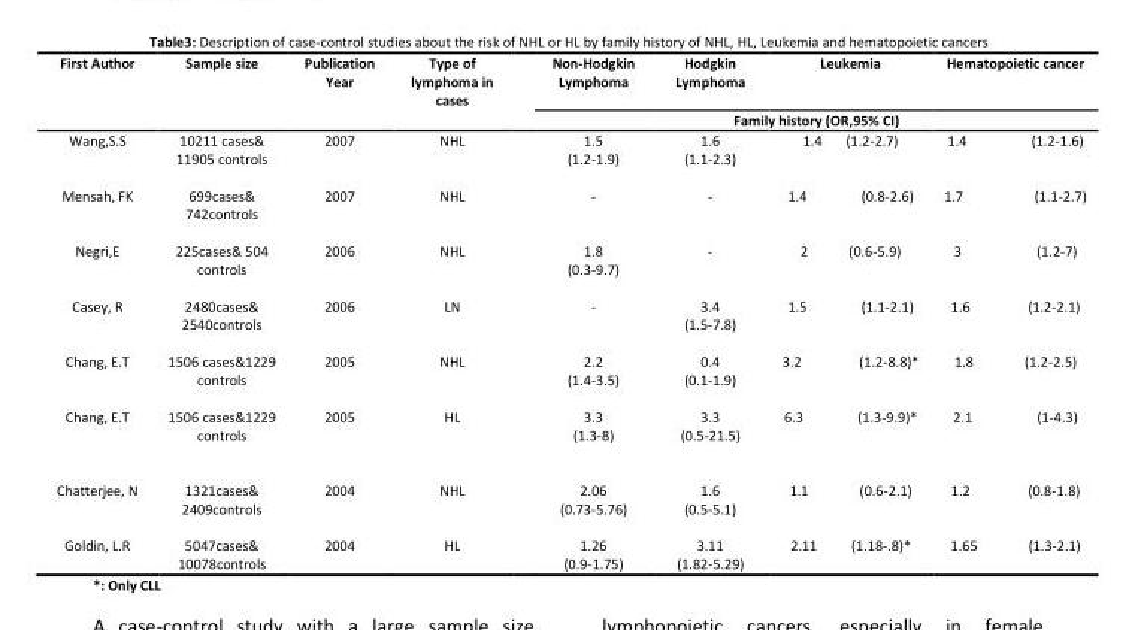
<table><thead><tr><td rowspan="2">First Author</td><td rowspan="2">Sample size</td><td rowspan="2">Publication Year</td><td rowspan="2">Type of lymphoma in cases</td><td>Non-Hodgkin Lymphoma</td><td>Hodgkin Lymphoma</td><td>Leukemia</td><td>Hematopoietic cancer</td></tr><tr><td colspan="4">Family history (OR,95% CI)</td></tr></thead><tbody><tr><td>Wang,S.S</td><td>10211 cases&amp; 11905 controls</td><td>2007</td><td>NHL</td><td>1.5 (1.2-1.9)</td><td>1.6 (1.1-2.3)</td><td>1.4 (1.2-2.7)</td><td>1.4 (1.2-1.6)</td></tr><tr><td>Mensah, FK</td><td>699cases&amp; 742controls</td><td>2007</td><td>NHL</td><td>-</td><td>-</td><td>1.4 (0.8-2.6)</td><td>1.7 (1.1-2.7)</td></tr><tr><td>Negri,E</td><td>225cases&amp; 504 controls</td><td>2006</td><td>NHL</td><td>1.8 (0.3-9.7)</td><td>-</td><td>2 (0.6-5.9)</td><td>3 (1.2-7)</td></tr><tr><td>Casey, R</td><td>2480cases&amp; 2540controls</td><td>2006</td><td>LN</td><td>-</td><td>3.4 (1.5-7.8)</td><td>1.5 (1.1-2.1)</td><td>1.6 (1.2-2.1)</td></tr><tr><td>Chang, E.T</td><td>1506 cases&amp;1229 controls</td><td>2005</td><td>NHL</td><td>2.2 (1.4-3.5)</td><td>0.4 (0.1-1.9)</td><td>3.2 (1.2-8.8)*</td><td>1.8 (1.2-2.5)</td></tr><tr><td>Chang, E.T</td><td>1506 cases&amp;1229 controls</td><td>2005</td><td>HL</td><td>3.3 (1.3-8)</td><td>3.3 (0.5-21.5)</td><td>6.3 (1.3-9.9)*</td><td>2.1 (1-4.3)</td></tr><tr><td>Chatterjee, N</td><td>1321cases&amp; 2409controls</td><td>2004</td><td>NHL</td><td>2.06 (0.73-5.76)</td><td>1.6 (0.5-5.1)</td><td>1.1 (0.6-2.1)</td><td>1.2 (0.8-1.8)</td></tr><tr><td>Goldin, L.R</td><td>5047cases&amp; 10078controls</td><td>2004</td><td>HL</td><td>1.26 (0.9-1.75)</td><td>3.11 (1.82-5.29)</td><td>2.11 (1.18-.8)*</td><td>1.65 (1.3-2.1)</td></tr></tbody></table>